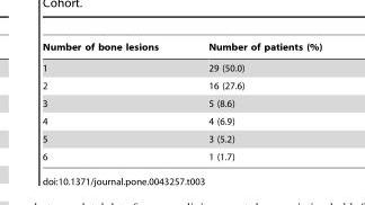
<table><thead><tr><td>Number of bone lesions</td><td>Number of patients (%)</td></tr></thead><tbody><tr><td>1</td><td>29 (50.0)</td></tr><tr><td>2</td><td>16 (27.6)</td></tr><tr><td>3</td><td>5 (8.6)</td></tr><tr><td>4</td><td>4 (6.9)</td></tr><tr><td>5</td><td>3 (5.2)</td></tr><tr><td>6</td><td>1 (1.7)</td></tr></tbody></table>